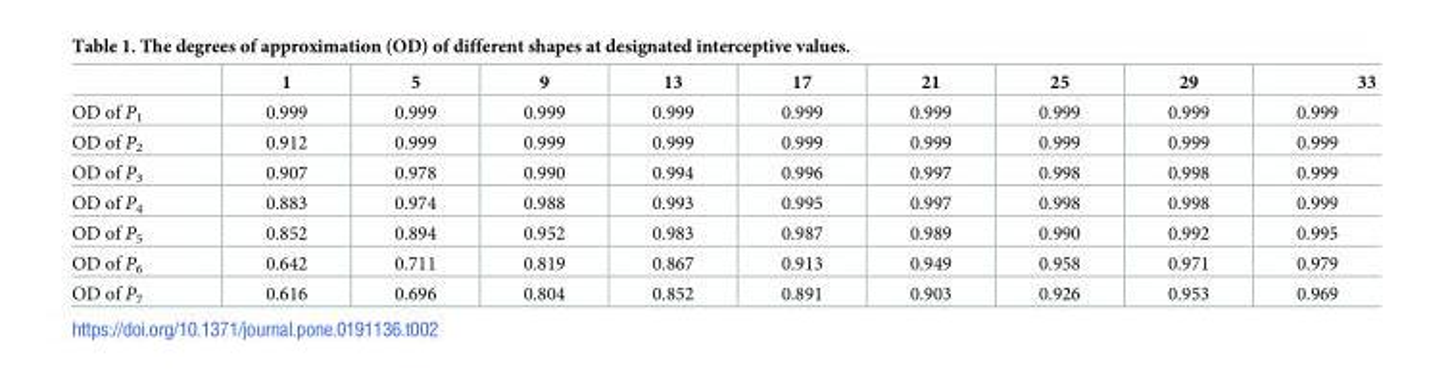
<table><thead><tr><td></td><td>1</td><td>5</td><td>9</td><td>13</td><td>17</td><td>21</td><td>25</td><td>29</td><td>33</td></tr></thead><tbody><tr><td>OD of P<sub>1</sub></td><td>0.999</td><td>0.999</td><td>0.999</td><td>0.999</td><td>0.999</td><td>0.999</td><td>0.999</td><td>0.999</td><td>0.999</td></tr><tr><td>OD of P<sub>2</sub></td><td>0.912</td><td>0.999</td><td>0.999</td><td>0.999</td><td>0.999</td><td>0.999</td><td>0.999</td><td>0.999</td><td>0.999</td></tr><tr><td>OD of P<sub>3</sub></td><td>0.907</td><td>0.978</td><td>0.990</td><td>0.994</td><td>0.996</td><td>0.997</td><td>0.998</td><td>0.998</td><td>0.999</td></tr><tr><td>OD of P<sub>4</sub></td><td>0.883</td><td>0.974</td><td>0.988</td><td>0.993</td><td>0.995</td><td>0.997</td><td>0.998</td><td>0.998</td><td>0.999</td></tr><tr><td>OD of P<sub>5</sub></td><td>0.852</td><td>0.894</td><td>0.952</td><td>0.983</td><td>0.987</td><td>0.989</td><td>0.990</td><td>0.992</td><td>0.995</td></tr><tr><td>OD of P<sub>6</sub></td><td>0.642</td><td>0.711</td><td>0.819</td><td>0.867</td><td>0.913</td><td>0.949</td><td>0.958</td><td>0.971</td><td>0.979</td></tr><tr><td>OD of P<sub>7</sub></td><td>0.616</td><td>0.696</td><td>0.804</td><td>0.852</td><td>0.891</td><td>0.903</td><td>0.926</td><td>0.953</td><td>0.969</td></tr></tbody></table>